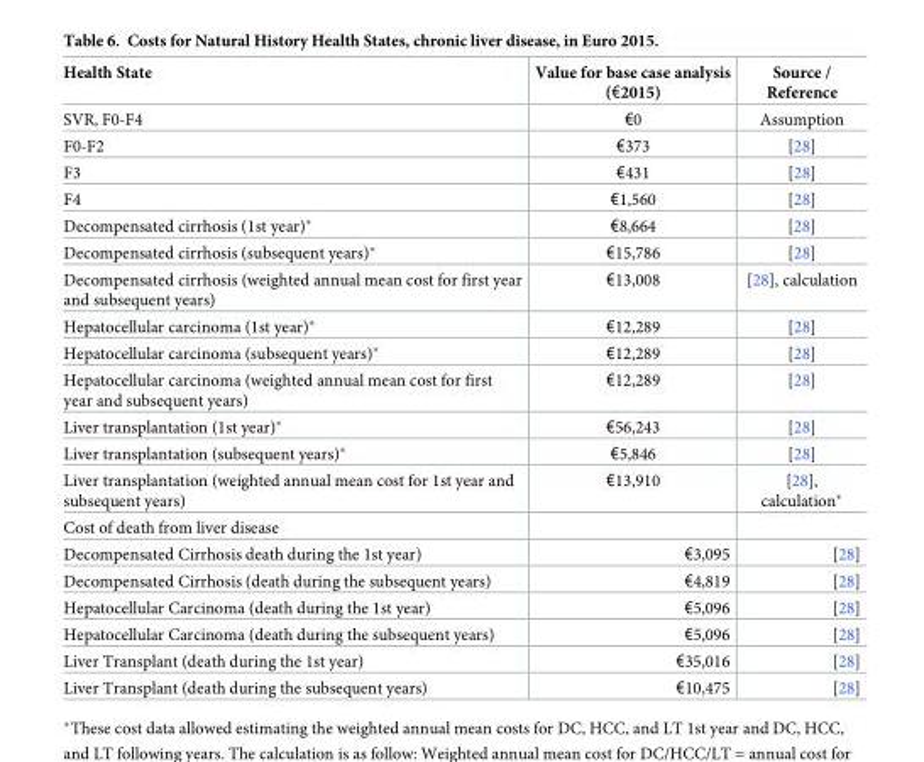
<table><thead><tr><td>Health State</td><td>Value for base case analysis (€2015)</td><td>Source / Reference</td></tr></thead><tbody><tr><td>SVR, F0-F4</td><td>€0</td><td>Assumption</td></tr><tr><td>F0-F2</td><td>€373</td><td>[28]</td></tr><tr><td>F3</td><td>€431</td><td>[28]</td></tr><tr><td>F4</td><td>€1,560</td><td>[28]</td></tr><tr><td>Decompensated cirrhosis (1st year)*</td><td>€8,664</td><td>[28]</td></tr><tr><td>Decompensated cirrhosis (subsequent years)*</td><td>€15,786</td><td>[28]</td></tr><tr><td>Decompensated cirrhosis (weighted annual mean cost for first year and subsequent years)</td><td>€13,008</td><td>[28], calculation</td></tr><tr><td>Hepatocellular carcinoma (1st year)*</td><td>€12,289</td><td>[28]</td></tr><tr><td>Hepatocellular carcinoma (subsequent years)*</td><td>€12,289</td><td>[28]</td></tr><tr><td>Hepatocellular carcinoma (weighted annual mean cost for first year and subsequent years)</td><td>€12,289</td><td>[28]</td></tr><tr><td>Liver transplantation (1st year)*</td><td>€56,243</td><td>[28]</td></tr><tr><td>Liver transplantation (subsequent years)*</td><td>€5,846</td><td>[28]</td></tr><tr><td>Liver transplantation (weighted annual mean cost for 1st year and subsequent years)</td><td>€13,910</td><td>[28], calculation*</td></tr><tr><td colspan="3">Cost of death from liver disease</td></tr><tr><td>Decompensated Cirrhosis death during the 1st year)</td><td>€3,095</td><td>[28]</td></tr><tr><td>Decompensated Cirrhosis (death during the subsequent years)</td><td>€4,819</td><td>[28]</td></tr><tr><td>Hepatocellular Carcinoma (death during the 1st year)</td><td>€5,096</td><td>[28]</td></tr><tr><td>Hepatocellular Carcinoma (death during the subsequent years)</td><td>€5,096</td><td>[28]</td></tr><tr><td>Liver Transplant (death during the 1st year)</td><td>€35,016</td><td>[28]</td></tr><tr><td>Liver Transplant (death during the subsequent years)</td><td>€10,475</td><td>[28]</td></tr></tbody></table>